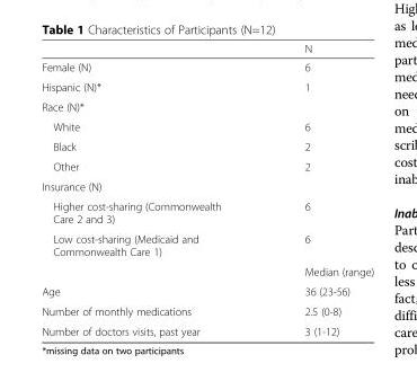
<table><thead><tr><td></td><td>N</td></tr></thead><tbody><tr><td>Female (N)</td><td>6</td></tr><tr><td>Hispanic (N)*</td><td>1</td></tr><tr><td colspan="2">Race (N)*</td></tr><tr><td>White</td><td>6</td></tr><tr><td>Black</td><td>2</td></tr><tr><td>Other</td><td>2</td></tr><tr><td colspan="2">Insurance (N)</td></tr><tr><td>Higher cost-sharing (Commonwealth Care 2 and 3)</td><td>6</td></tr><tr><td rowspan="2">Low cost-sharing (Medicaid and Commonwealth Care 1)</td><td>6</td></tr><tr><td>Median (range)</td></tr><tr><td>Age</td><td>36 (23-56)</td></tr><tr><td>Number of monthly medications</td><td>2.5 (0-8)</td></tr><tr><td>Number of doctors visits, past year</td><td>3 (1-12)</td></tr></tbody></table>